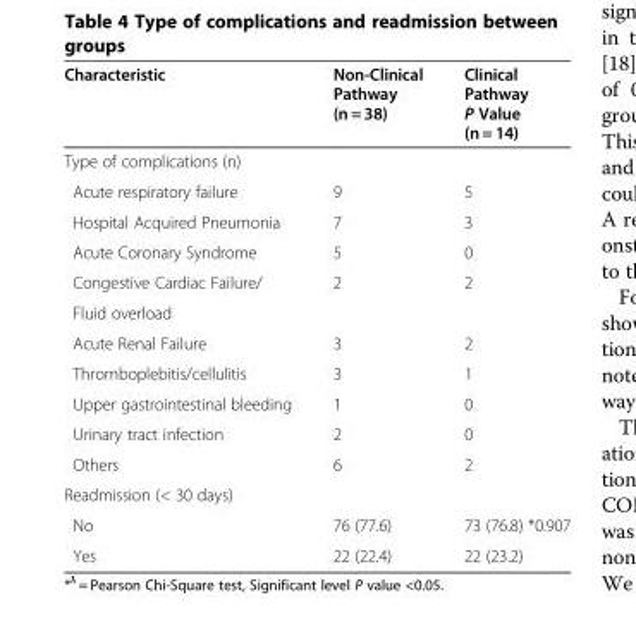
<table><thead><tr><td>Characteristic</td><td>Non-Clinical Pathway (n = 38)</td><td>Clinical Pathway P Value (n = 14)</td></tr></thead><tbody><tr><td colspan="3">Type of complications (n)</td></tr><tr><td>Acute respiratory failure</td><td>9</td><td>5</td></tr><tr><td>Hospital Acquired Pneumonia</td><td>7</td><td>3</td></tr><tr><td>Acute Coronary Syndrome</td><td>5</td><td>0</td></tr><tr><td>Congestive Cardiac Failure/</td><td>2</td><td>2</td></tr><tr><td colspan="3">Fluid overload</td></tr><tr><td>Acute Renal Failure</td><td>3</td><td>2</td></tr><tr><td>Thromboplebitis/cellulitis</td><td>3</td><td>1</td></tr><tr><td>Upper gastrointestinal bleeding</td><td>1</td><td>0</td></tr><tr><td>Urinary tract infection</td><td>2</td><td>0</td></tr><tr><td>Others</td><td>6</td><td>2</td></tr><tr><td colspan="3">Readmission (&lt; 30 days)</td></tr><tr><td>No</td><td>76 (77.6)</td><td>73 (76.8) *0.907</td></tr><tr><td>Yes</td><td>22 (22.4)</td><td>22 (23.2)</td></tr></tbody></table>